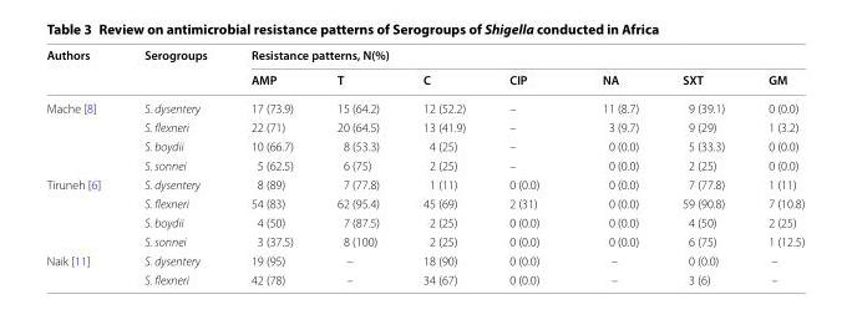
<table><thead><tr><td rowspan="2">Authors</td><td rowspan="2">Serogroups</td><td colspan="7">Resistance patterns, N(%)</td></tr><tr><td>AMP</td><td>T</td><td>C</td><td>CIP</td><td>NA</td><td>SXT</td><td>GM</td></tr></thead><tbody><tr><td rowspan="4">Mache [8]</td><td>S. dysentery</td><td>17 (73.9)</td><td>15 (64.2)</td><td>12 (52.2)</td><td>–</td><td>11 (8.7)</td><td>9 (39.1)</td><td>0 (0.0)</td></tr><tr><td>S. flexneri</td><td>22 (71)</td><td>20 (64.5)</td><td>13 (41.9)</td><td>–</td><td>3 (9.7)</td><td>9 (29)</td><td>1 (3.2)</td></tr><tr><td>S. boydii</td><td>10 (66.7)</td><td>8 (53.3)</td><td>4 (25)</td><td>–</td><td>0 (0.0)</td><td>5 (33.3)</td><td>0 (0.0)</td></tr><tr><td>S. sonnei</td><td>5 (62.5)</td><td>6 (75)</td><td>2 (25)</td><td>–</td><td>0 (0.0)</td><td>2 (25)</td><td>0 (0.0)</td></tr><tr><td rowspan="4">Tiruneh [6]</td><td>S. dysentery</td><td>8 (89)</td><td>7 (77.8)</td><td>1 (11)</td><td>0 (0.0)</td><td>0 (0.0)</td><td>7 (77.8)</td><td>1 (11)</td></tr><tr><td>S. flexneri</td><td>54 (83)</td><td>62 (95.4)</td><td>45 (69)</td><td>2 (31)</td><td>0 (0.0)</td><td>59 (90.8)</td><td>7 (10.8)</td></tr><tr><td>S. boydii</td><td>4 (50)</td><td>7 (87.5)</td><td>2 (25)</td><td>0 (0.0)</td><td>0 (0.0)</td><td>4 (50)</td><td>2 (25)</td></tr><tr><td>S. sonnei</td><td>3 (37.5)</td><td>8 (100)</td><td>2 (25)</td><td>0 (0.0)</td><td>0 (0.0)</td><td>6 (75)</td><td>1 (12.5)</td></tr><tr><td rowspan="2">Naik [11]</td><td>S. dysentery</td><td>19 (95)</td><td>–</td><td>18 (90)</td><td>0 (0.0)</td><td>–</td><td>0 (0.0)</td><td>–</td></tr><tr><td>S. flexneri</td><td>42 (78)</td><td>–</td><td>34 (67)</td><td>0 (0.0)</td><td>–</td><td>3 (6)</td><td>–</td></tr></tbody></table>